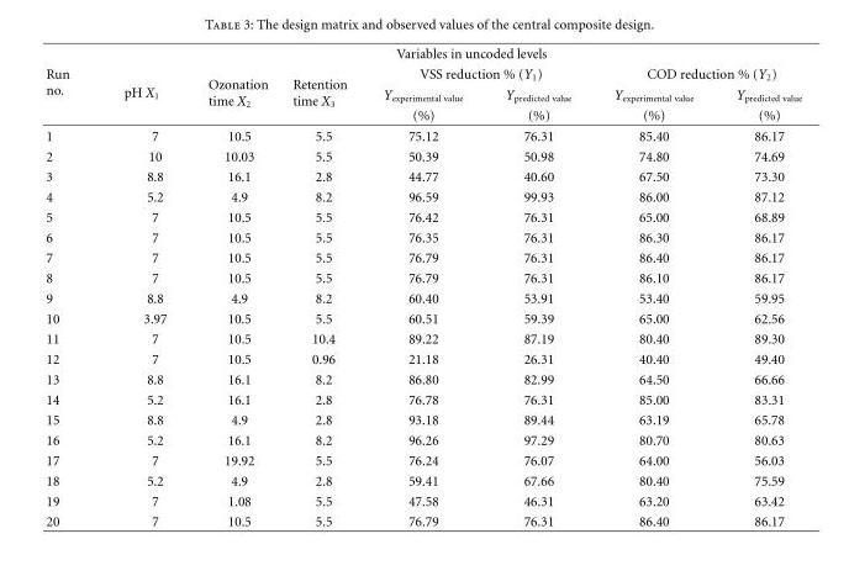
<table><thead><tr><td rowspan="4">Run no.</td><td colspan="7">Variables in uncoded levels</td></tr><tr><td rowspan="3">pH X<sub>1</sub></td><td rowspan="3">Ozonation time X<sub>2</sub></td><td rowspan="3">Retention time X<sub>3</sub></td><td colspan="2">VSS reduction % (Y<sub>1</sub>)</td><td colspan="2">COD reduction % (Y<sub>2</sub>)</td></tr><tr><td rowspan="2">Y<sub>experimental value</sub> (%)</td><td rowspan="2">Y<sub>predicted value</sub> (%)</td><td rowspan="2">Y<sub>experimental value</sub> (%)</td><td rowspan="2">Y<sub>predicted value</sub> (%)</td></tr><tr></tr></thead><tbody><tr><td>1</td><td>7</td><td>10.5</td><td>5.5</td><td>75.12</td><td>76.31</td><td>85.40</td><td>86.17</td></tr><tr><td>2</td><td>10</td><td>10.03</td><td>5.5</td><td>50.39</td><td>50.98</td><td>74.80</td><td>74.69</td></tr><tr><td>3</td><td>8.8</td><td>16.1</td><td>2.8</td><td>44.77</td><td>40.60</td><td>67.50</td><td>73.30</td></tr><tr><td>4</td><td>5.2</td><td>4.9</td><td>8.2</td><td>96.59</td><td>99.93</td><td>86.00</td><td>87.12</td></tr><tr><td>5</td><td>7</td><td>10.5</td><td>5.5</td><td>76.42</td><td>76.31</td><td>65.00</td><td>68.89</td></tr><tr><td>6</td><td>7</td><td>10.5</td><td>5.5</td><td>76.35</td><td>76.31</td><td>86.30</td><td>86.17</td></tr><tr><td>7</td><td>7</td><td>10.5</td><td>5.5</td><td>76.79</td><td>76.31</td><td>86.40</td><td>86.17</td></tr><tr><td>8</td><td>7</td><td>10.5</td><td>5.5</td><td>76.79</td><td>76.31</td><td>86.10</td><td>86.17</td></tr><tr><td>9</td><td>8.8</td><td>4.9</td><td>8.2</td><td>60.40</td><td>53.91</td><td>53.40</td><td>59.95</td></tr><tr><td>10</td><td>3.97</td><td>10.5</td><td>5.5</td><td>60.51</td><td>59.39</td><td>65.00</td><td>62.56</td></tr><tr><td>11</td><td>7</td><td>10.5</td><td>10.4</td><td>89.22</td><td>87.19</td><td>80.40</td><td>89.30</td></tr><tr><td>12</td><td>7</td><td>10.5</td><td>0.96</td><td>21.18</td><td>26.31</td><td>40.40</td><td>49.40</td></tr><tr><td>13</td><td>8.8</td><td>16.1</td><td>8.2</td><td>86.80</td><td>82.99</td><td>64.50</td><td>66.66</td></tr><tr><td>14</td><td>5.2</td><td>16.1</td><td>2.8</td><td>76.78</td><td>76.31</td><td>85.00</td><td>83.31</td></tr><tr><td>15</td><td>8.8</td><td>4.9</td><td>2.8</td><td>93.18</td><td>89.44</td><td>63.19</td><td>65.78</td></tr><tr><td>16</td><td>5.2</td><td>16.1</td><td>8.2</td><td>96.26</td><td>97.29</td><td>80.70</td><td>80.63</td></tr><tr><td>17</td><td>7</td><td>19.92</td><td>5.5</td><td>76.24</td><td>76.07</td><td>64.00</td><td>56.03</td></tr><tr><td>18</td><td>5.2</td><td>4.9</td><td>2.8</td><td>59.41</td><td>67.66</td><td>80.40</td><td>75.59</td></tr><tr><td>19</td><td>7</td><td>1.08</td><td>5.5</td><td>47.58</td><td>46.31</td><td>63.20</td><td>63.42</td></tr><tr><td>20</td><td>7</td><td>10.5</td><td>5.5</td><td>76.79</td><td>76.31</td><td>86.40</td><td>86.17</td></tr></tbody></table>